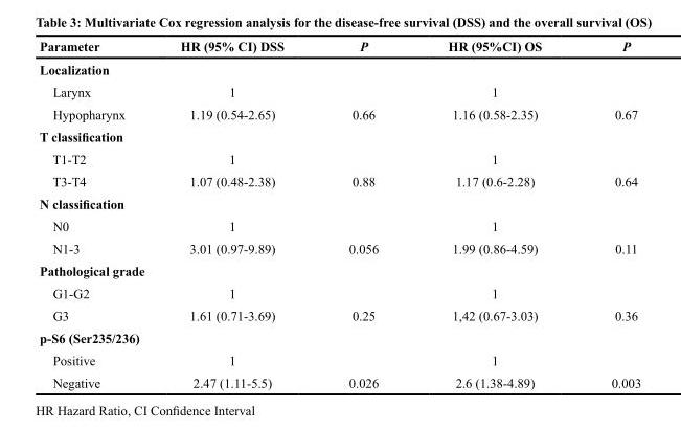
<table><thead><tr><td>Parameter</td><td>HR (95% CI) DSS</td><td>P</td><td>HR (95%CI) OS</td><td>P</td></tr></thead><tbody><tr><td colspan="5">Localization</td></tr><tr><td>Larynx</td><td>1</td><td></td><td>1</td><td></td></tr><tr><td>Hypopharynx</td><td>1.19 (0.54-2.65)</td><td>0.66</td><td>1.16 (0.58-2.35)</td><td>0.67</td></tr><tr><td colspan="5">T classification</td></tr><tr><td>T1-T2</td><td>1</td><td></td><td>1</td><td></td></tr><tr><td>T3-T4</td><td>1.07 (0.48-2.38)</td><td>0.88</td><td>1.17 (0.6-2.28)</td><td>0.64</td></tr><tr><td colspan="5">N classification</td></tr><tr><td>N0</td><td>1</td><td></td><td>1</td><td></td></tr><tr><td>N1-3</td><td>3.01 (0.97-9.89)</td><td>0.056</td><td>1.99 (0.86-4.59)</td><td>0.11</td></tr><tr><td colspan="5">Pathological grade</td></tr><tr><td>G1-G2</td><td>1</td><td></td><td>1</td><td></td></tr><tr><td>G3</td><td>1.61 (0.71-3.69)</td><td>0.25</td><td>1,42 (0.67-3.03)</td><td>0.36</td></tr><tr><td colspan="5">p-S6 (Ser235/236)</td></tr><tr><td>Positive</td><td>1</td><td></td><td>1</td><td></td></tr><tr><td>Negative</td><td>2.47 (1.11-5.5)</td><td>0.026</td><td>2.6 (1.38-4.89)</td><td>0.003</td></tr></tbody></table>